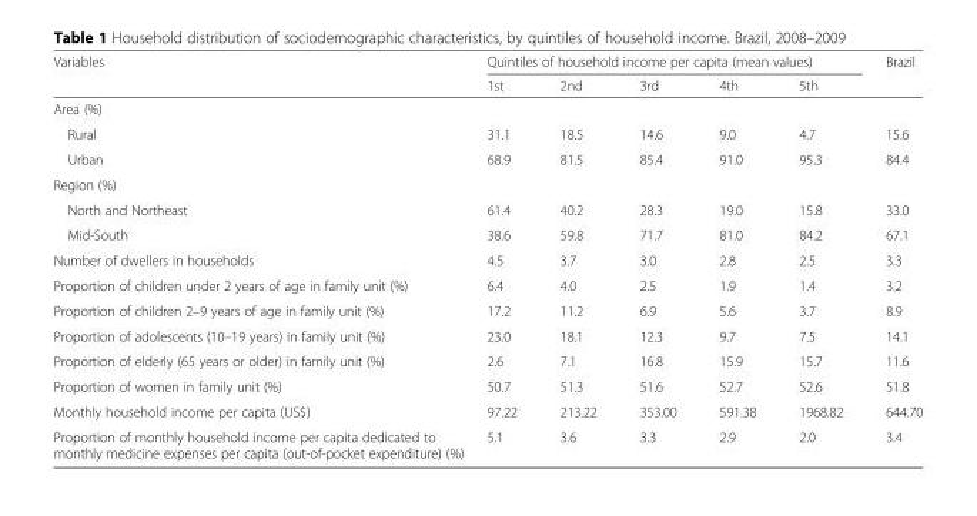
<table><thead><tr><td rowspan="2">Variables</td><td colspan="5">Quintiles of household income per capita (mean values)</td><td rowspan="2">Brazil</td></tr><tr><td>1st</td><td>2nd</td><td>3rd</td><td>4th</td><td>5th</td></tr></thead><tbody><tr><td colspan="7">Area (%)</td></tr><tr><td>Rural</td><td>31.1</td><td>18.5</td><td>14.6</td><td>9.0</td><td>4.7</td><td>15.6</td></tr><tr><td>Urban</td><td>68.9</td><td>81.5</td><td>85.4</td><td>91.0</td><td>95.3</td><td>84.4</td></tr><tr><td colspan="7">Region (%)</td></tr><tr><td>North and Northeast</td><td>61.4</td><td>40.2</td><td>28.3</td><td>19.0</td><td>15.8</td><td>33.0</td></tr><tr><td>Mid-South</td><td>38.6</td><td>59.8</td><td>71.7</td><td>81.0</td><td>84.2</td><td>67.1</td></tr><tr><td>Number of dwellers in households</td><td>4.5</td><td>3.7</td><td>3.0</td><td>2.8</td><td>2.5</td><td>3.3</td></tr><tr><td>Proportion of children under 2 years of age in family unit (%)</td><td>6.4</td><td>4.0</td><td>2.5</td><td>1.9</td><td>1.4</td><td>3.2</td></tr><tr><td>Proportion of children 2–9 years of age in family unit (%)</td><td>17.2</td><td>11.2</td><td>6.9</td><td>5.6</td><td>3.7</td><td>8.9</td></tr><tr><td>Proportion of adolescents (10–19 years) in family unit (%)</td><td>23.0</td><td>18.1</td><td>12.3</td><td>9.7</td><td>7.5</td><td>14.1</td></tr><tr><td>Proportion of elderly (65 years or older) in family unit (%)</td><td>2.6</td><td>7.1</td><td>16.8</td><td>15.9</td><td>15.7</td><td>11.6</td></tr><tr><td>Proportion of women in family unit (%)</td><td>50.7</td><td>51.3</td><td>51.6</td><td>52.7</td><td>52.6</td><td>51.8</td></tr><tr><td>Monthly household income per capita (US$)</td><td>97.22</td><td>213.22</td><td>353.00</td><td>591.38</td><td>1968.82</td><td>644.70</td></tr><tr><td>Proportion of monthly household income per capita dedicated to monthly medicine expenses per capita (out-of-pocket expenditure) (%)</td><td>5.1</td><td>3.6</td><td>3.3</td><td>2.9</td><td>2.0</td><td>3.4</td></tr></tbody></table>